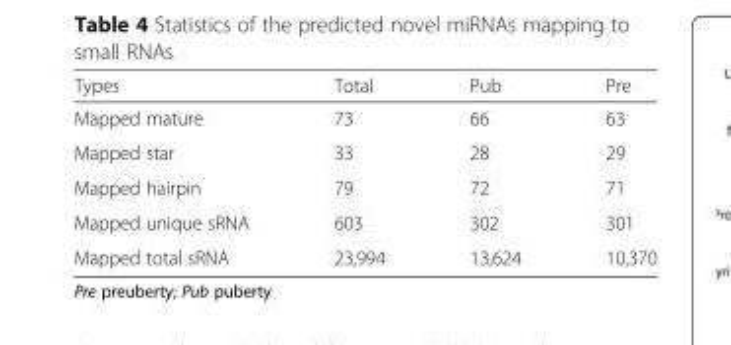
<table><thead><tr><td>Types</td><td>Total</td><td>Pub</td><td>Pre</td></tr></thead><tbody><tr><td>Mapped mature</td><td>73</td><td>66</td><td>63</td></tr><tr><td>Mapped star</td><td>33</td><td>28</td><td>29</td></tr><tr><td>Mapped hairpin</td><td>79</td><td>72</td><td>71</td></tr><tr><td>Mapped unique sRNA</td><td>603</td><td>302</td><td>301</td></tr><tr><td>Mapped total sRNA</td><td>23,994</td><td>13,624</td><td>10,370</td></tr></tbody></table>